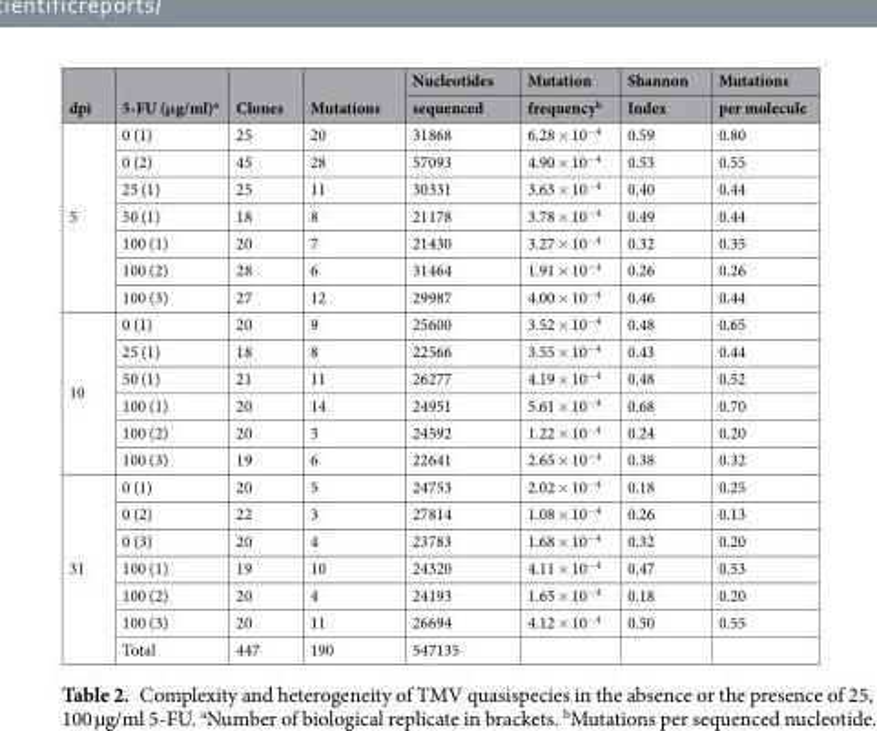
<table><thead><tr><td rowspan="2">dpi</td><td rowspan="2">5-FU (μg/ml)<sup>a</sup></td><td rowspan="2">Clones</td><td rowspan="2">Mutations</td><td rowspan="2">Nucleotides sequenced</td><td rowspan="2">Mutation frequency<sup>b</sup></td><td rowspan="2">Shannon Index</td><td rowspan="2">Mutations per molecule</td></tr><tr></tr></thead><tbody><tr><td rowspan="7">5</td><td>0 (1)</td><td>25</td><td>20</td><td>31868</td><td>6.28 × 10<sup>−4</sup></td><td>0.59</td><td>0.80</td></tr><tr><td>0 (2)</td><td>45</td><td>28</td><td>57093</td><td>4.90 × 10<sup>−4</sup></td><td>0.53</td><td>0.55</td></tr><tr><td>25 (1)</td><td>25</td><td>11</td><td>30331</td><td>3.63 × 10<sup>−4</sup></td><td>0.40</td><td>0.44</td></tr><tr><td>50 (1)</td><td>18</td><td>8</td><td>21178</td><td>3.78 × 10<sup>−4</sup></td><td>0.49</td><td>0.44</td></tr><tr><td>100 (1)</td><td>20</td><td>7</td><td>21430</td><td>3.27 × 10<sup>−4</sup></td><td>0.32</td><td>0.35</td></tr><tr><td>100 (2)</td><td>28</td><td>6</td><td>31464</td><td>1.91 × 10<sup>−4</sup></td><td>0.26</td><td>0.26</td></tr><tr><td>100 (3)</td><td>27</td><td>12</td><td>29987</td><td>4.00 × 10<sup>−4</sup></td><td>0.46</td><td>0.44</td></tr><tr><td rowspan="6">10</td><td>0 (1)</td><td>20</td><td>9</td><td>25600</td><td>3.52 × 10<sup>−4</sup></td><td>0.48</td><td>0.65</td></tr><tr><td>25 (1)</td><td>18</td><td>8</td><td>22566</td><td>3.55 × 10<sup>−4</sup></td><td>0.43</td><td>0.44</td></tr><tr><td>50 (1)</td><td>21</td><td>11</td><td>26277</td><td>4.19 × 10<sup>−4</sup></td><td>0.48</td><td>0.52</td></tr><tr><td>100 (1)</td><td>20</td><td>14</td><td>24951</td><td>5.61 × 10<sup>−4</sup></td><td>0.68</td><td>0.70</td></tr><tr><td>100 (2)</td><td>20</td><td>3</td><td>24592</td><td>1.22 × 10<sup>−4</sup></td><td>0.24</td><td>0.20</td></tr><tr><td>100 (3)</td><td>19</td><td>6</td><td>22641</td><td>2.65 × 10<sup>−4</sup></td><td>0.38</td><td>0.32</td></tr><tr><td rowspan="7">31</td><td>0 (1)</td><td>20</td><td>5</td><td>24753</td><td>2.02 × 10<sup>−4</sup></td><td>0.18</td><td>0.25</td></tr><tr><td>0 (2)</td><td>22</td><td>3</td><td>27814</td><td>1.08 × 10<sup>−4</sup></td><td>0.26</td><td>0.13</td></tr><tr><td>0 (3)</td><td>20</td><td>4</td><td>23783</td><td>1.68 × 10<sup>−4</sup></td><td>0.32</td><td>0.20</td></tr><tr><td>100 (1)</td><td>19</td><td>10</td><td>24320</td><td>4.11 × 10<sup>−4</sup></td><td>0.47</td><td>0.53</td></tr><tr><td>100 (2)</td><td>20</td><td>4</td><td>24193</td><td>1.65 × 10<sup>−4</sup></td><td>0.18</td><td>0.20</td></tr><tr><td>100 (3)</td><td>20</td><td>11</td><td>26694</td><td>4.12 × 10<sup>−4</sup></td><td>0.50</td><td>0.55</td></tr><tr><td>Total</td><td>447</td><td>190</td><td>547135</td><td></td><td></td><td></td></tr></tbody></table>